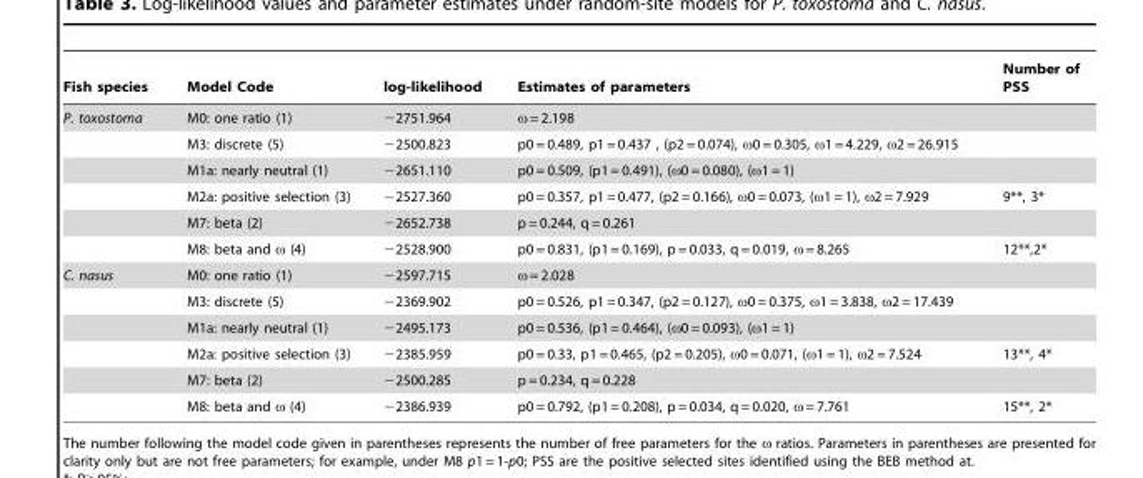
<table><thead><tr><td>Fish species</td><td>Model Code</td><td>log-likelihood</td><td>Estimates of parameters</td><td>Number of PSS</td></tr></thead><tbody><tr><td rowspan="6">P. toxostoma</td><td>M0: one ratio (1)</td><td>−2751.964</td><td>ω = 2.198</td><td></td></tr><tr><td>M3: discrete (5)</td><td>−2500.823</td><td>p0 = 0.489, p1 = 0.437 , (p2 = 0.074), ω0 = 0.305, ω1 = 4.229, ω2 = 26.915</td><td></td></tr><tr><td>M1a: nearly neutral (1)</td><td>−2651.110</td><td>p0 = 0.509, (p1 = 0.491), (ω0 = 0.080), (ω1 = 1)</td><td></td></tr><tr><td>M2a: positive selection (3)</td><td>−2527.360</td><td>p0 = 0.357, p1 = 0.477, (p2 = 0.166), ω0 = 0.073, (ω1 = 1), ω2 = 7.929</td><td>9**, 3*</td></tr><tr><td>M7: beta (2)</td><td>−2652.738</td><td>p = 0.244, q = 0.261</td><td></td></tr><tr><td>M8: beta and ω (4)</td><td>−2528.900</td><td>p0 = 0.831, (p1 = 0.169), p = 0.033, q = 0.019, ω = 8.265</td><td>12**,2*</td></tr><tr><td rowspan="6">C. nasus</td><td>M0: one ratio (1)</td><td>−2597.715</td><td>ω = 2.028</td><td></td></tr><tr><td>M3: discrete (5)</td><td>−2369.902</td><td>p0 = 0.526, p1 = 0.347, (p2 = 0.127), ω0 = 0.375, ω1 = 3.838, ω2 = 17.439</td><td></td></tr><tr><td>M1a: nearly neutral (1)</td><td>−2495.173</td><td>p0 = 0.536, (p1 = 0.464), (ω0 = 0.093), (ω1 = 1)</td><td></td></tr><tr><td>M2a: positive selection (3)</td><td>−2385.959</td><td>p0 = 0.33, p1 = 0.465, (p2 = 0.205), ω0 = 0.071, (ω1 = 1), ω2 = 7.524</td><td>13**, 4*</td></tr><tr><td>M7: beta (2)</td><td>−2500.285</td><td>p = 0.234, q = 0.228</td><td></td></tr><tr><td>M8: beta and ω (4)</td><td>−2386.939</td><td>p0 = 0.792, (p1 = 0.208), p = 0.034, q = 0.020, ω = 7.761</td><td>15**, 2*</td></tr></tbody></table>